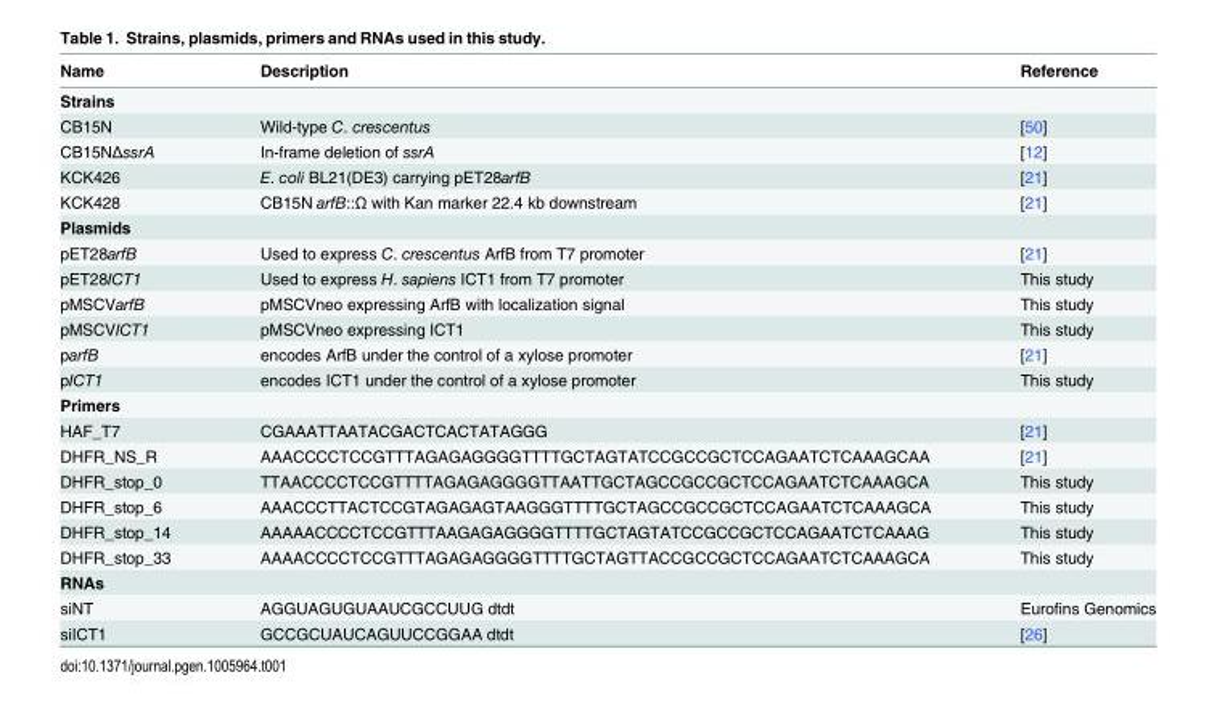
<table><thead><tr><td>Name</td><td>Description</td><td>Reference</td></tr></thead><tbody><tr><td colspan="3">Strains</td></tr><tr><td>CB15N</td><td>Wild-type C. crescentus</td><td>[50]</td></tr><tr><td>CB15NΔssrA</td><td>In-frame deletion of ssrA</td><td>[12]</td></tr><tr><td>KCK426</td><td>E. coli BL21(DE3) carrying pET28arfB</td><td>[21]</td></tr><tr><td>KCK428</td><td>CB15N arfB::Ω with Kan marker 22.4 kb downstream</td><td>[21]</td></tr><tr><td colspan="3">Plasmids</td></tr><tr><td>pET28arfB</td><td>Used to express C. crescentus ArfB from T7 promoter</td><td>[21]</td></tr><tr><td>pET28ICT1</td><td>Used to express H. sapiens ICT1 from T7 promoter</td><td>This study</td></tr><tr><td>pMSCVarfB</td><td>pMSCVneo expressing ArfB with localization signal</td><td>This study</td></tr><tr><td>pMSCVICT1</td><td>pMSCVneo expressing ICT1</td><td>This study</td></tr><tr><td>parfB</td><td>encodes ArfB under the control of a xylose promoter</td><td>[21]</td></tr><tr><td>pICT1</td><td>encodes ICT1 under the control of a xylose promoter</td><td>This study</td></tr><tr><td colspan="3">Primers</td></tr><tr><td>HAF_T7</td><td>CGAAATTAATACGACTCACTATAGGG</td><td>[21]</td></tr><tr><td>DHFR_NS_R</td><td>AAACCCCTCCGTTTAGAGAGGGGTTTTGCTAGTATCCGCCGCTCCAGAATCTCAAAGCAA</td><td>[21]</td></tr><tr><td>DHFR_stop_0</td><td>TTAACCCCTCCGTTTTAGAGAGGGGTTAATTGCTAGCCGCCGCTCCAGAATCTCAAAGCA</td><td>This study</td></tr><tr><td>DHFR_stop_6</td><td>AAACCCTTACTCCGTAGAGAGTAAGGGTTTTGCTAGCCGCCGCTCCAGAATCTCAAAGCA</td><td>This study</td></tr><tr><td>DHFR_stop_14</td><td>AAAAACCCCTCCGTTTAAGAGAGGGGTTTTGCTAGTATCCGCCGCTCCAGAATCTCAAAG</td><td>This study</td></tr><tr><td>DHFR_stop_33</td><td>AAAACCCCTCCGTTTAGAGAGGGGTTTTGCTAGTTACCGCCGCTCCAGAATCTCAAAGCA</td><td>This study</td></tr><tr><td colspan="3">RNAs</td></tr><tr><td>siNT</td><td>AGGUAGUGUAAUCGCCUUG dtdt</td><td>Eurofins Genomics</td></tr><tr><td>siICT1</td><td>GCCGCUAUCAGUUCCGGAA dtdt</td><td>[26]</td></tr></tbody></table>